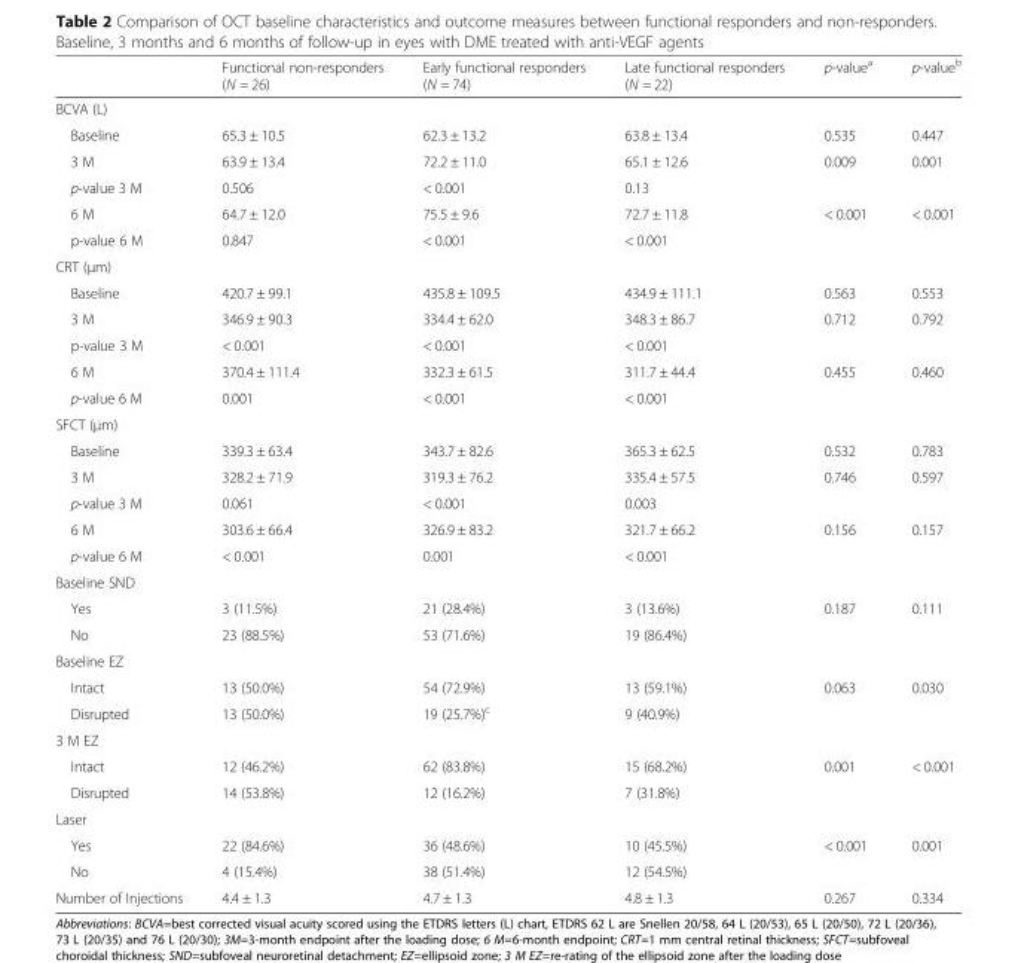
<table><thead><tr><td></td><td>Functional non-responders (N = 26)</td><td>Early functional responders (N = 74)</td><td>Late functional responders (N = 22)</td><td>p-value<sup>a</sup></td><td>p-value<sup>b</sup></td></tr></thead><tbody><tr><td colspan="6">BCVA (L)</td></tr><tr><td>Baseline</td><td>65.3 ± 10.5</td><td>62.3 ± 13.2</td><td>63.8 ± 13.4</td><td>0.535</td><td>0.447</td></tr><tr><td>3 M</td><td>63.9 ± 13.4</td><td>72.2 ± 11.0</td><td>65.1 ± 12.6</td><td>0.009</td><td>0.001</td></tr><tr><td>p-value 3 M</td><td>0.506</td><td>&lt; 0.001</td><td>0.13</td><td></td><td></td></tr><tr><td>6 M</td><td>64.7 ± 12.0</td><td>75.5 ± 9.6</td><td>72.7 ± 11.8</td><td>&lt; 0.001</td><td>&lt; 0.001</td></tr><tr><td>p-value 6 M</td><td>0.847</td><td>&lt; 0.001</td><td>&lt; 0.001</td><td></td><td></td></tr><tr><td colspan="6">CRT (μm)</td></tr><tr><td>Baseline</td><td>420.7 ± 99.1</td><td>435.8 ± 109.5</td><td>434.9 ± 111.1</td><td>0.563</td><td>0.553</td></tr><tr><td>3 M</td><td>346.9 ± 90.3</td><td>334.4 ± 62.0</td><td>348.3 ± 86.7</td><td>0.712</td><td>0.792</td></tr><tr><td>p-value 3 M</td><td>&lt; 0.001</td><td>&lt; 0.001</td><td>&lt; 0.001</td><td></td><td></td></tr><tr><td>6 M</td><td>370.4 ± 111.4</td><td>332.3 ± 61.5</td><td>311.7 ± 44.4</td><td>0.455</td><td>0.460</td></tr><tr><td>p-value 6 M</td><td>0.001</td><td>&lt; 0.001</td><td>&lt; 0.001</td><td></td><td></td></tr><tr><td colspan="6">SFCT (μm)</td></tr><tr><td>Baseline</td><td>339.3 ± 63.4</td><td>343.7 ± 82.6</td><td>365.3 ± 62.5</td><td>0.532</td><td>0.783</td></tr><tr><td>3 M</td><td>328.2 ± 71.9</td><td>319.3 ± 76.2</td><td>335.4 ± 57.5</td><td>0.746</td><td>0.597</td></tr><tr><td>p-value 3 M</td><td>0.061</td><td>&lt; 0.001</td><td>0.003</td><td></td><td></td></tr><tr><td>6 M</td><td>303.6 ± 66.4</td><td>326.9 ± 83.2</td><td>321.7 ± 66.2</td><td>0.156</td><td>0.157</td></tr><tr><td>p-value 6 M</td><td>&lt; 0.001</td><td>0.001</td><td>&lt; 0.001</td><td></td><td></td></tr><tr><td colspan="6">Baseline SND</td></tr><tr><td>Yes</td><td>3 (11.5%)</td><td>21 (28.4%)</td><td>3 (13.6%)</td><td>0.187</td><td>0.111</td></tr><tr><td>No</td><td>23 (88.5%)</td><td>53 (71.6%)</td><td>19 (86.4%)</td><td></td><td></td></tr><tr><td colspan="6">Baseline EZ</td></tr><tr><td>Intact</td><td>13 (50.0%)</td><td>54 (72.9%)</td><td>13 (59.1%)</td><td>0.063</td><td>0.030</td></tr><tr><td>Disrupted</td><td>13 (50.0%)</td><td>19 (25.7%)<sup>c</sup></td><td>9 (40.9%)</td><td></td><td></td></tr><tr><td colspan="6">3 M EZ</td></tr><tr><td>Intact</td><td>12 (46.2%)</td><td>62 (83.8%)</td><td>15 (68.2%)</td><td>0.001</td><td>&lt; 0.001</td></tr><tr><td>Disrupted</td><td>14 (53.8%)</td><td>12 (16.2%)</td><td>7 (31.8%)</td><td></td><td></td></tr><tr><td colspan="6">Laser</td></tr><tr><td>Yes</td><td>22 (84.6%)</td><td>36 (48.6%)</td><td>10 (45.5%)</td><td>&lt; 0.001</td><td>0.001</td></tr><tr><td>No</td><td>4 (15.4%)</td><td>38 (51.4%)</td><td>12 (54.5%)</td><td></td><td></td></tr><tr><td>Number of Injections</td><td>4.4 ± 1.3</td><td>4.7 ± 1.3</td><td>4.8 ± 1.3</td><td>0.267</td><td>0.334</td></tr></tbody></table>